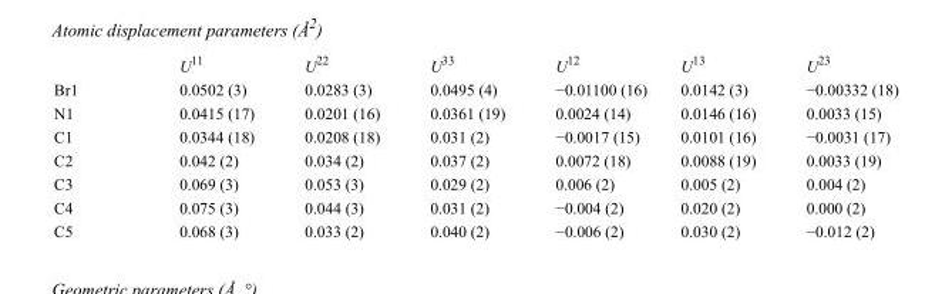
<table><thead><tr><td></td><td>U<sup>11</sup></td><td>U<sup>22</sup></td><td>U<sup>33</sup></td><td>U<sup>12</sup></td><td>U<sup>13</sup></td><td>U<sup>23</sup></td></tr></thead><tbody><tr><td>Br1</td><td>0.0502 (3)</td><td>0.0283 (3)</td><td>0.0495 (4)</td><td>−0.01100 (16)</td><td>0.0142 (3)</td><td>−0.00332 (18)</td></tr><tr><td>N1</td><td>0.0415 (17)</td><td>0.0201 (16)</td><td>0.0361 (19)</td><td>0.0024 (14)</td><td>0.0146 (16)</td><td>0.0033 (15)</td></tr><tr><td>C1</td><td>0.0344 (18)</td><td>0.0208 (18)</td><td>0.031 (2)</td><td>−0.0017 (15)</td><td>0.0101 (16)</td><td>−0.0031 (17)</td></tr><tr><td>C2</td><td>0.042 (2)</td><td>0.034 (2)</td><td>0.037 (2)</td><td>0.0072 (18)</td><td>0.0088 (19)</td><td>0.0033 (19)</td></tr><tr><td>C3</td><td>0.069 (3)</td><td>0.053 (3)</td><td>0.029 (2)</td><td>0.006 (2)</td><td>0.005 (2)</td><td>0.004 (2)</td></tr><tr><td>C4</td><td>0.075 (3)</td><td>0.044 (3)</td><td>0.031 (2)</td><td>−0.004 (2)</td><td>0.020 (2)</td><td>0.000 (2)</td></tr><tr><td>C5</td><td>0.068 (3)</td><td>0.033 (2)</td><td>0.040 (2)</td><td>−0.006 (2)</td><td>0.030 (2)</td><td>−0.012 (2)</td></tr></tbody></table>